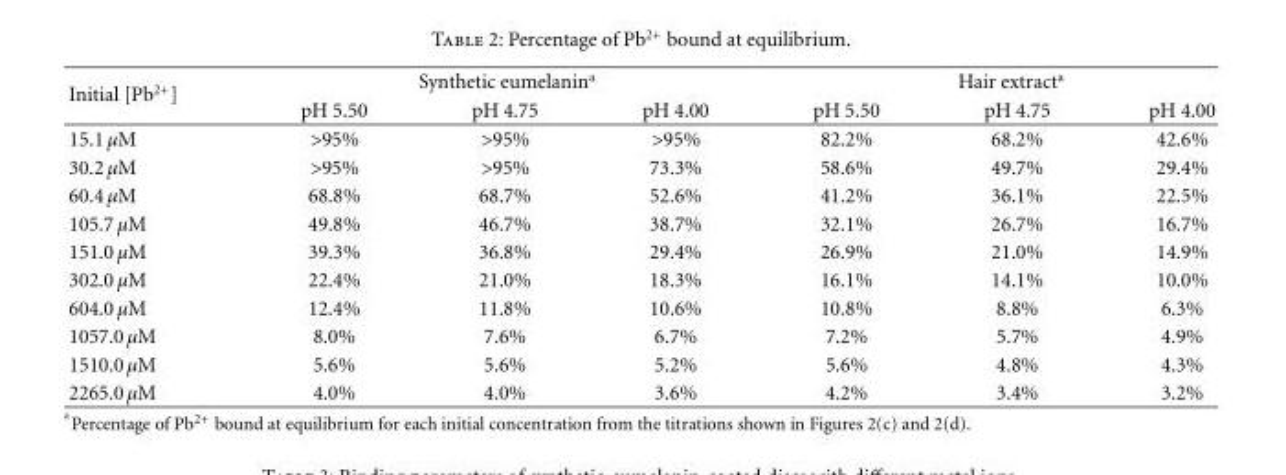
<table><thead><tr><td rowspan="2">Initial [Pb<sup>2+</sup>]</td><td colspan="3">Synthetic eumelanin<sup>a</sup></td><td colspan="3">Hair extract<sup>a</sup></td></tr><tr><td>pH 5.50</td><td>pH 4.75</td><td>pH 4.00</td><td>pH 5.50</td><td>pH 4.75</td><td>pH 4.00</td></tr></thead><tbody><tr><td>15.1 μM</td><td>&gt;95%</td><td>&gt;95%</td><td>&gt;95%</td><td>82.2%</td><td>68.2%</td><td>42.6%</td></tr><tr><td>30.2 μM</td><td>&gt;95%</td><td>&gt;95%</td><td>73.3%</td><td>58.6%</td><td>49.7%</td><td>29.4%</td></tr><tr><td>60.4 μM</td><td>68.8%</td><td>68.7%</td><td>52.6%</td><td>41.2%</td><td>36.1%</td><td>22.5%</td></tr><tr><td>105.7 μM</td><td>49.8%</td><td>46.7%</td><td>38.7%</td><td>32.1%</td><td>26.7%</td><td>16.7%</td></tr><tr><td>151.0 μM</td><td>39.3%</td><td>36.8%</td><td>29.4%</td><td>26.9%</td><td>21.0%</td><td>14.9%</td></tr><tr><td>302.0 μM</td><td>22.4%</td><td>21.0%</td><td>18.3%</td><td>16.1%</td><td>14.1%</td><td>10.0%</td></tr><tr><td>604.0 μM</td><td>12.4%</td><td>11.8%</td><td>10.6%</td><td>10.8%</td><td>8.8%</td><td>6.3%</td></tr><tr><td>1057.0 μM</td><td>8.0%</td><td>7.6%</td><td>6.7%</td><td>7.2%</td><td>5.7%</td><td>4.9%</td></tr><tr><td>1510.0 μM</td><td>5.6%</td><td>5.6%</td><td>5.2%</td><td>5.6%</td><td>4.8%</td><td>4.3%</td></tr><tr><td>2265.0 μM</td><td>4.0%</td><td>4.0%</td><td>3.6%</td><td>4.2%</td><td>3.4%</td><td>3.2%</td></tr></tbody></table>